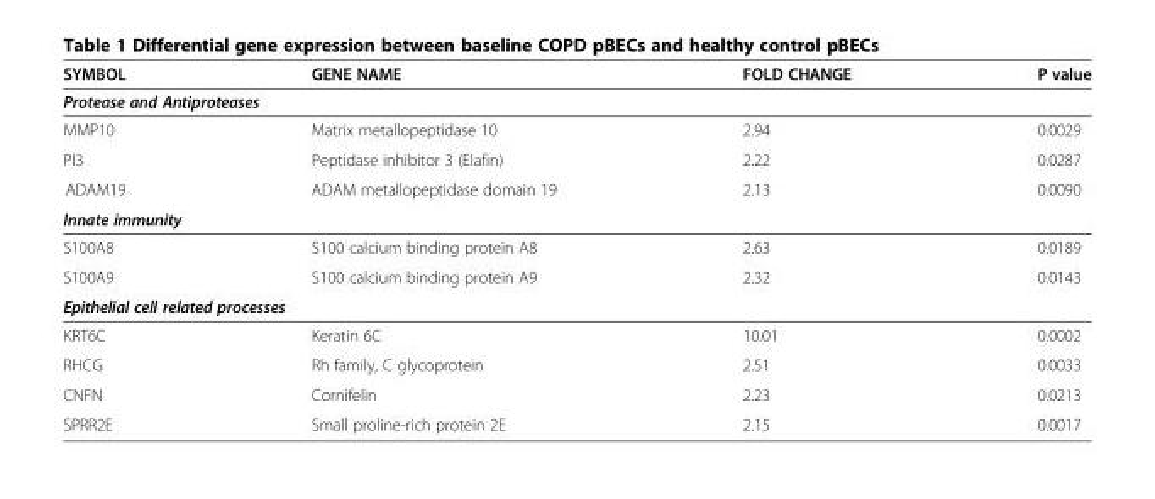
<table><thead><tr><td>SYMBOL</td><td>GENE NAME</td><td>FOLD CHANGE</td><td>P value</td></tr></thead><tbody><tr><td colspan="4">Protease and Antiproteases</td></tr><tr><td>MMP10</td><td>Matrix metallopeptidase 10</td><td>2.94</td><td>0.0029</td></tr><tr><td>PI3</td><td>Peptidase inhibitor 3 (Elafin)</td><td>2.22</td><td>0.0287</td></tr><tr><td>ADAM19</td><td>ADAM metallopeptidase domain 19</td><td>2.13</td><td>0.0090</td></tr><tr><td colspan="4">Innate immunity</td></tr><tr><td>S100A8</td><td>S100 calcium binding protein A8</td><td>2.63</td><td>0.0189</td></tr><tr><td>S100A9</td><td>S100 calcium binding protein A9</td><td>2.32</td><td>0.0143</td></tr><tr><td colspan="4">Epithelial cell related processes</td></tr><tr><td>KRT6C</td><td>Keratin 6C</td><td>10.01</td><td>0.0002</td></tr><tr><td>RHCG</td><td>Rh family, C glycoprotein</td><td>2.51</td><td>0.0033</td></tr><tr><td>CNFN</td><td>Cornifelin</td><td>2.23</td><td>0.0213</td></tr><tr><td>SPRR2E</td><td>Small proline-rich protein 2E</td><td>2.15</td><td>0.0017</td></tr></tbody></table>